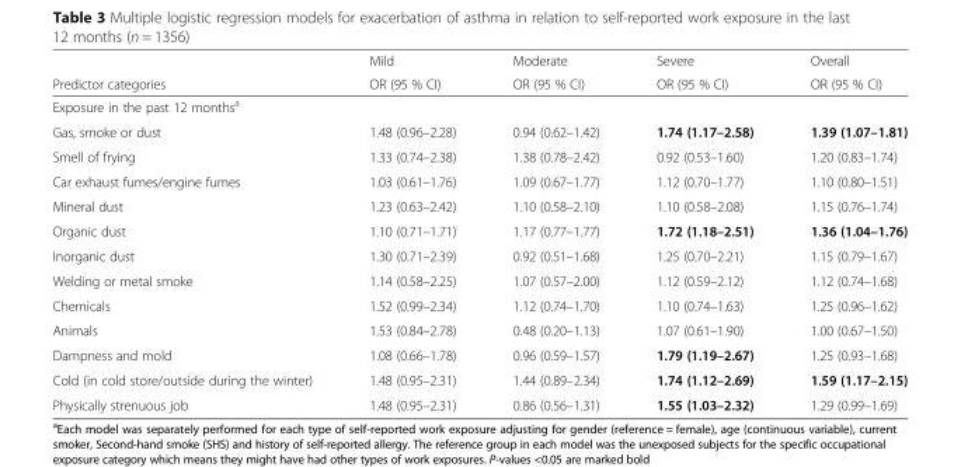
<table><thead><tr><td rowspan="2">Predictor categories</td><td rowspan="2">Mild OR (95 % CI)</td><td rowspan="2">Moderate OR (95 % CI)</td><td rowspan="2">Severe OR (95 % CI)</td><td rowspan="2">Overall OR (95 % CI)</td></tr><tr></tr></thead><tbody><tr><td colspan="5">Exposure in the past 12 months<sup>a</sup></td></tr><tr><td>Gas, smoke or dust</td><td>1.48 (0.96–2.28)</td><td>0.94 (0.62–1.42)</td><td>1.74 (1.17–2.58)</td><td>1.39 (1.07–1.81)</td></tr><tr><td>Smell of frying</td><td>1.33 (0.74–2.38)</td><td>1.38 (0.78–2.42)</td><td>0.92 (0.53–1.60)</td><td>1.20 (0.83–1.74)</td></tr><tr><td>Car exhaust fumes/engine fumes</td><td>1.03 (0.61–1.76)</td><td>1.09 (0.67–1.77)</td><td>1.12 (0.70–1.77)</td><td>1.10 (0.80–1.51)</td></tr><tr><td>Mineral dust</td><td>1.23 (0.63–2.42)</td><td>1.10 (0.58–2.10)</td><td>1.10 (0.58–2.08)</td><td>1.15 (0.76–1.74)</td></tr><tr><td>Organic dust</td><td>1.10 (0.71–1.71)</td><td>1.17 (0.77–1.77)</td><td>1.72 (1.18–2.51)</td><td>1.36 (1.04–1.76)</td></tr><tr><td>Inorganic dust</td><td>1.30 (0.71–2.39)</td><td>0.92 (0.51–1.68)</td><td>1.25 (0.70–2.21)</td><td>1.15 (0.79–1.67)</td></tr><tr><td>Welding or metal smoke</td><td>1.14 (0.58–2.25)</td><td>1.07 (0.57–2.00)</td><td>1.12 (0.59–2.12)</td><td>1.12 (0.74–1.68)</td></tr><tr><td>Chemicals</td><td>1.52 (0.99–2.34)</td><td>1.12 (0.74–1.70)</td><td>1.10 (0.74–1.63)</td><td>1.25 (0.96–1.62)</td></tr><tr><td>Animals</td><td>1.53 (0.84–2.78)</td><td>0.48 (0.20–1.13)</td><td>1.07 (0.61–1.90)</td><td>1.00 (0.67–1.50)</td></tr><tr><td>Dampness and mold</td><td>1.08 (0.66–1.78)</td><td>0.96 (0.59–1.57)</td><td>1.79 (1.19–2.67)</td><td>1.25 (0.93–1.68)</td></tr><tr><td>Cold (in cold store/outside during the winter)</td><td>1.48 (0.95–2.31)</td><td>1.44 (0.89–2.34)</td><td>1.74 (1.12–2.69)</td><td>1.59 (1.17–2.15)</td></tr><tr><td>Physically strenuous job</td><td>1.48 (0.95–2.31)</td><td>0.86 (0.56–1.31)</td><td>1.55 (1.03–2.32)</td><td>1.29 (0.99–1.69)</td></tr></tbody></table>